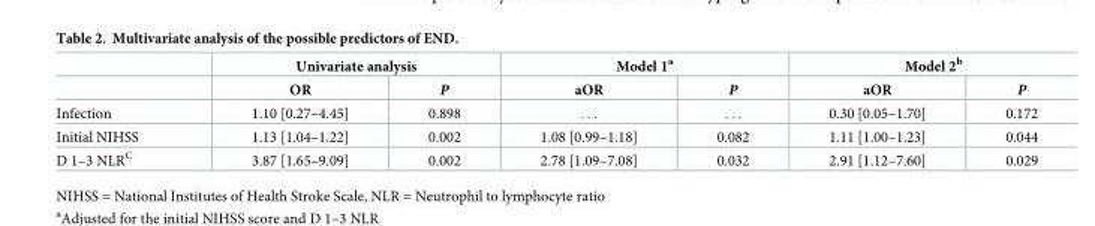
<table><thead><tr><td rowspan="2"></td><td colspan="2">Univariate analysis</td><td colspan="2">Model 1<sup>a</sup></td><td colspan="2">Model 2<sup>b</sup></td></tr><tr><td>OR</td><td>P</td><td>aOR</td><td>P</td><td>aOR</td><td>P</td></tr></thead><tbody><tr><td>Infection</td><td>1.10 [0.27–4.45]</td><td>0.898</td><td>. . .</td><td>. . .</td><td>0.30 [0.05–1.70]</td><td>0.172</td></tr><tr><td>Initial NIHSS</td><td>1.13 [1.04–1.22]</td><td>0.002</td><td>1.08 [0.99–1.18]</td><td>0.082</td><td>1.11 [1.00–1.23]</td><td>0.044</td></tr><tr><td>D 1–3 NLR<sup>C</sup></td><td>3.87 [1.65–9.09]</td><td>0.002</td><td>2.78 [1.09–7.08]</td><td>0.032</td><td>2.91 [1.12–7.60]</td><td>0.029</td></tr></tbody></table>